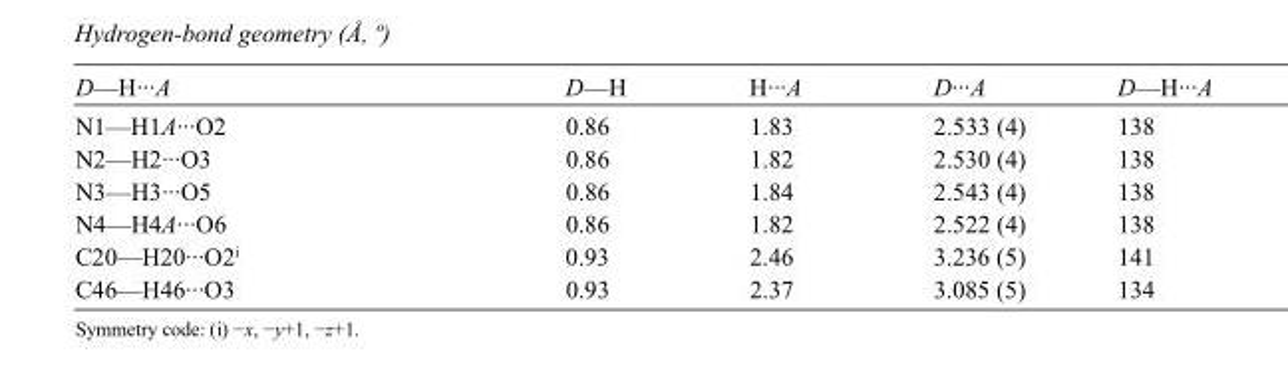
<table><tbody><tr><td>D—H···A</td><td>D—H</td><td>H···A</td><td>D···A</td><td>D—H···A</td></tr><tr><td>N1—H1A···O2</td><td>0.86</td><td>1.83</td><td>2.533 (4)</td><td>138</td></tr><tr><td>N2—H2···O3</td><td>0.86</td><td>1.82</td><td>2.530 (4)</td><td>138</td></tr><tr><td>N3—H3···O5</td><td>0.86</td><td>1.84</td><td>2.543 (4)</td><td>138</td></tr><tr><td>N4—H4A···O6</td><td>0.86</td><td>1.82</td><td>2.522 (4)</td><td>138</td></tr><tr><td>C20—H20···O2<sup>i</sup></td><td>0.93</td><td>2.46</td><td>3.236 (5)</td><td>141</td></tr><tr><td>C46—H46···O3</td><td>0.93</td><td>2.37</td><td>3.085 (5)</td><td>134</td></tr></tbody></table>